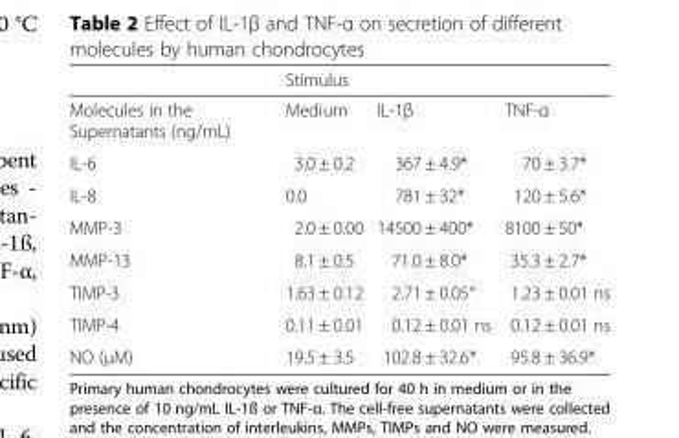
<table><thead><tr><td rowspan="2">Molecules in the Supernatants (ng/mL)</td><td colspan="3">Stimulus</td></tr><tr><td>Medium</td><td>IL-1β</td><td>TNF-α</td></tr></thead><tbody><tr><td>IL-6</td><td>3.0 ± 0.2</td><td>367 ± 4.9*</td><td>70 ± 3.7*</td></tr><tr><td>IL-8</td><td>0.0</td><td>781 ± 32*</td><td>120 ± 5.6*</td></tr><tr><td>MMP-3</td><td>2.0 ± 0.00</td><td>14500 ± 400*</td><td>8100 ± 50*</td></tr><tr><td>MMP-13</td><td>8.1 ± 0.5</td><td>71.0 ± 8.0*</td><td>35.3 ± 2.7*</td></tr><tr><td>TIMP-3</td><td>1.63 ± 0.12</td><td>2.71 ± 0.05°</td><td>1.23 ± 0.01 ns</td></tr><tr><td>TIMP-4</td><td>0.11 ± 0.01</td><td>0.12 ± 0.01 ns</td><td>0.12 ± 0.01 ns</td></tr><tr><td>NO (μM)</td><td>19.5 ± 3.5</td><td>102.8 ± 32.6*</td><td>95.8 ± 36.9*</td></tr></tbody></table>